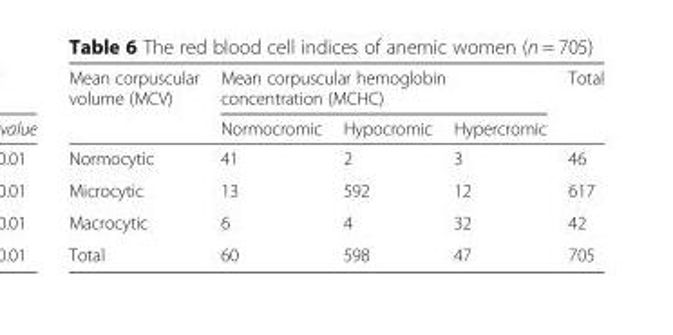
<table><thead><tr><td rowspan="2">Mean corpuscular volume (MCV)</td><td colspan="3">Mean corpuscular hemoglobin concentration (MCHC)</td><td rowspan="2">Total</td></tr><tr><td>Normocromic</td><td>Hypocromic</td><td>Hypercromic</td></tr></thead><tbody><tr><td>Normocytic</td><td>41</td><td>2</td><td>3</td><td>46</td></tr><tr><td>Microcytic</td><td>13</td><td>592</td><td>12</td><td>617</td></tr><tr><td>Macrocytic</td><td>6</td><td>4</td><td>32</td><td>42</td></tr><tr><td>Total</td><td>60</td><td>598</td><td>47</td><td>705</td></tr></tbody></table>